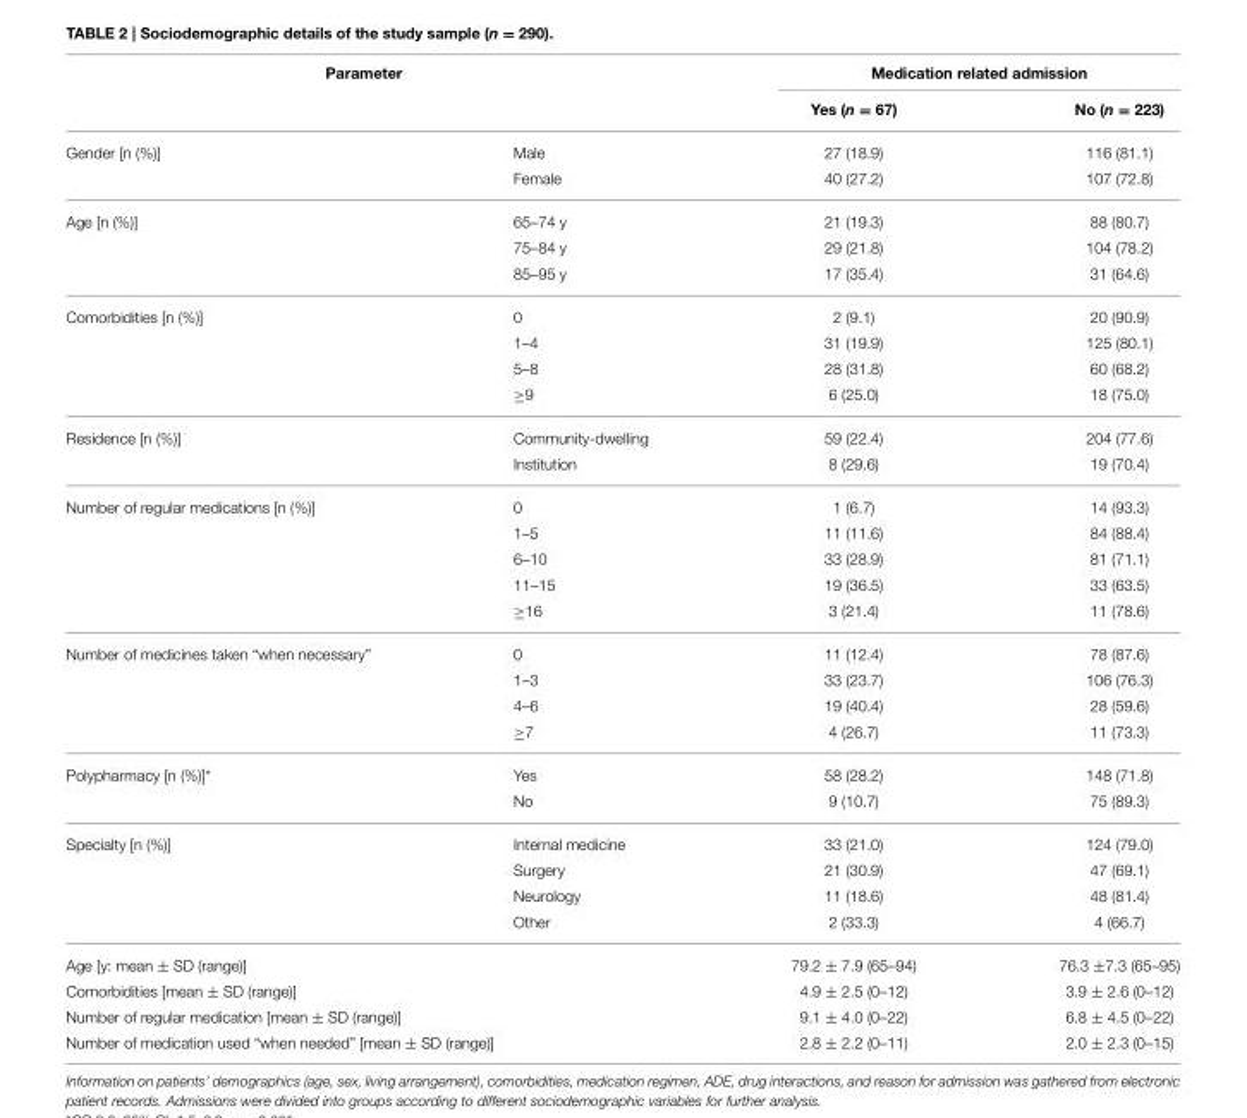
<table><thead><tr><td colspan="2">Parameter</td><td colspan="2">Medication related admission</td></tr><tr><td></td><td></td><td>Yes (n = 67)</td><td>No (n = 223)</td></tr></thead><tbody><tr><td rowspan="2">Gender [n (%)]</td><td>Male</td><td>27 (18.9)</td><td>116 (81.1)</td></tr><tr><td>Female</td><td>40 (27.2)</td><td>107 (72.8)</td></tr><tr><td rowspan="3">Age [n (%)]</td><td>65–74 y</td><td>21 (19.3)</td><td>88 (80.7)</td></tr><tr><td>75–84 y</td><td>29 (21.8)</td><td>104 (78.2)</td></tr><tr><td>85–95 y</td><td>17 (35.4)</td><td>31 (64.6)</td></tr><tr><td rowspan="4">Comorbidities [n (%)]</td><td>0</td><td>2 (9.1)</td><td>20 (90.9)</td></tr><tr><td>1–4</td><td>31 (19.9)</td><td>125 (80.1)</td></tr><tr><td>5–8</td><td>28 (31.8)</td><td>60 (68.2)</td></tr><tr><td>≥9</td><td>6 (25.0)</td><td>18 (75.0)</td></tr><tr><td rowspan="2">Residence [n (%)]</td><td>Community-dwelling</td><td>59 (22.4)</td><td>204 (77.6)</td></tr><tr><td>Institution</td><td>8 (29.6)</td><td>19 (70.4)</td></tr><tr><td rowspan="5">Number of regular medications [n (%)]</td><td>0</td><td>1 (6.7)</td><td>14 (93.3)</td></tr><tr><td>1–5</td><td>11 (11.6)</td><td>84 (88.4)</td></tr><tr><td>6–10</td><td>33 (28.9)</td><td>81 (71.1)</td></tr><tr><td>11–15</td><td>19 (36.5)</td><td>33 (63.5)</td></tr><tr><td>≥16</td><td>3 (21.4)</td><td>11 (78.6)</td></tr><tr><td rowspan="4">Number of medicines taken “when necessary”</td><td>0</td><td>11 (12.4)</td><td>78 (87.6)</td></tr><tr><td>1–3</td><td>33 (23.7)</td><td>106 (76.3)</td></tr><tr><td>4–6</td><td>19 (40.4)</td><td>28 (59.6)</td></tr><tr><td>≥7</td><td>4 (26.7)</td><td>11 (73.3)</td></tr><tr><td rowspan="2">Polypharmacy [n (%)]*</td><td>Yes</td><td>58 (28.2)</td><td>148 (71.8)</td></tr><tr><td>No</td><td>9 (10.7)</td><td>75 (89.3)</td></tr><tr><td rowspan="4">Specialty [n (%)]</td><td>Internal medicine</td><td>33 (21.0)</td><td>124 (79.0)</td></tr><tr><td>Surgery</td><td>21 (30.9)</td><td>47 (69.1)</td></tr><tr><td>Neurology</td><td>11 (18.6)</td><td>48 (81.4)</td></tr><tr><td>Other</td><td>2 (33.3)</td><td>4 (66.7)</td></tr><tr><td colspan="2">Age [y: mean ± SD (range)]</td><td>79.2 ± 7.9 (65–94)</td><td>76.3 ±7.3 (65–95)</td></tr><tr><td colspan="2">Comorbidities [mean ± SD (range)]</td><td>4.9 ± 2.5 (0–12)</td><td>3.9 ± 2.6 (0–12)</td></tr><tr><td colspan="2">Number of regular medication [mean ± SD (range)]</td><td>9.1 ± 4.0 (0–22)</td><td>6.8 ± 4.5 (0–22)</td></tr><tr><td colspan="2">Number of medication used “when needed” [mean ± SD (range)]</td><td>2.8 ± 2.2 (0–11)</td><td>2.0 ± 2.3 (0–15)</td></tr></tbody></table>